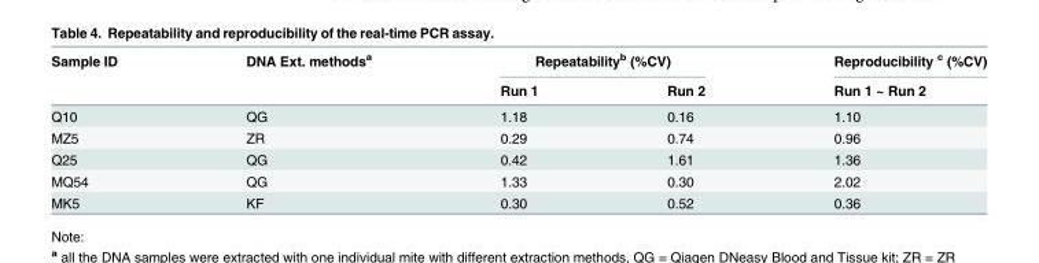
<table><thead><tr><td rowspan="2">Sample ID</td><td rowspan="2">DNA Ext. methods<sup>a</sup></td><td colspan="2">Repeatability<sup>b</sup> (%CV)</td><td rowspan="2">Reproducibility <sup>c</sup> (%CV) Run 1 ~ Run 2</td></tr><tr><td>Run 1</td><td>Run 2</td></tr></thead><tbody><tr><td>Q10</td><td>QG</td><td>1.18</td><td>0.16</td><td>1.10</td></tr><tr><td>MZ5</td><td>ZR</td><td>0.29</td><td>0.74</td><td>0.96</td></tr><tr><td>Q25</td><td>QG</td><td>0.42</td><td>1.61</td><td>1.36</td></tr><tr><td>MQ54</td><td>QG</td><td>1.33</td><td>0.30</td><td>2.02</td></tr><tr><td>MK5</td><td>KF</td><td>0.30</td><td>0.52</td><td>0.36</td></tr></tbody></table>